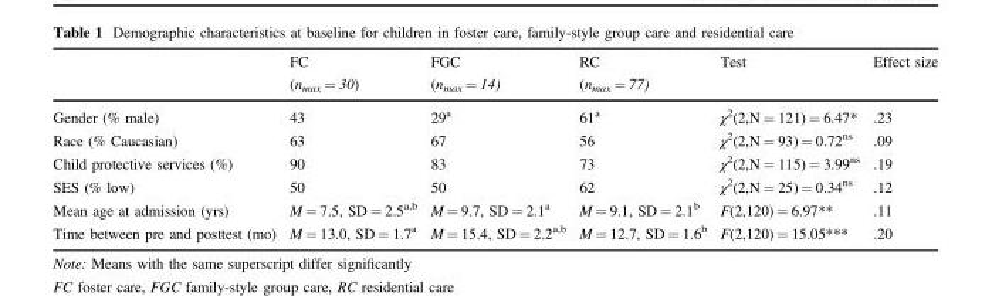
<table><thead><tr><td rowspan="2"></td><td rowspan="2">FC (n<sub>max</sub> = 30)</td><td rowspan="2">FGC (n<sub>max</sub> = 14)</td><td rowspan="2">RC (n<sub>max</sub> = 77)</td><td rowspan="2">Test</td><td rowspan="2">Effect size</td></tr><tr></tr></thead><tbody><tr><td>Gender (% male)</td><td>43</td><td>29<sup>a</sup></td><td>61<sup>a</sup></td><td>χ<sup>2</sup>(2,N = 121) = 6.47*</td><td>.23</td></tr><tr><td>Race (% Caucasian)</td><td>63</td><td>67</td><td>56</td><td>χ<sup>2</sup>(2,N = 93) = 0.72<sup>ns</sup></td><td>.09</td></tr><tr><td>Child protective services (%)</td><td>90</td><td>83</td><td>73</td><td>χ<sup>2</sup>(2,N = 115) = 3.99<sup>ns</sup></td><td>.19</td></tr><tr><td>SES (% low)</td><td>50</td><td>50</td><td>62</td><td>χ<sup>2</sup>(2,N = 25) = 0.34<sup>ns</sup></td><td>.12</td></tr><tr><td>Mean age at admission (yrs)</td><td>M = 7.5, SD = 2.5<sup>a,b</sup></td><td>M = 9.7, SD = 2.1<sup>a</sup></td><td>M = 9.1, SD = 2.1<sup>b</sup></td><td>F(2,120) = 6.97**</td><td>.11</td></tr><tr><td>Time between pre and posttest (mo)</td><td>M = 13.0, SD = 1.7<sup>a</sup></td><td>M = 15.4, SD = 2.2<sup>a,b</sup></td><td>M = 12.7, SD = 1.6<sup>b</sup></td><td>F(2,120) = 15.05***</td><td>.20</td></tr></tbody></table>